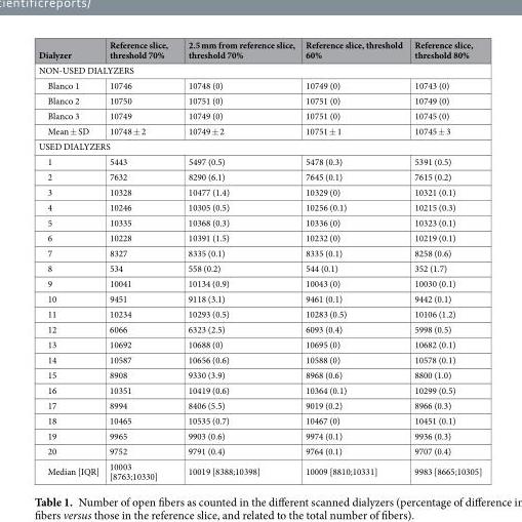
<table><thead><tr><td>Dialyzer</td><td>Reference slice, threshold 70%</td><td>2.5 mm from reference slice, threshold 70%</td><td>Reference slice, threshold 60%</td><td>Reference slice, threshold 80%</td></tr></thead><tbody><tr><td colspan="5">NON-USED DIALYZERS</td></tr><tr><td>Blanco 1</td><td>10746</td><td>10748 (0)</td><td>10749 (0)</td><td>10743 (0)</td></tr><tr><td>Blanco 2</td><td>10750</td><td>10751 (0)</td><td>10751 (0)</td><td>10749 (0)</td></tr><tr><td>Blanco 3</td><td>10749</td><td>10749 (0)</td><td>10751 (0)</td><td>10745 (0)</td></tr><tr><td>Mean ± SD</td><td>10748 ± 2</td><td>10749 ± 2</td><td>10751 ± 1</td><td>10745 ± 3</td></tr><tr><td colspan="5">USED DIALYZERS</td></tr><tr><td>1</td><td>5443</td><td>5497 (0.5)</td><td>5478 (0.3)</td><td>5391 (0.5)</td></tr><tr><td>2</td><td>7632</td><td>8290 (6.1)</td><td>7645 (0.1)</td><td>7615 (0.2)</td></tr><tr><td>3</td><td>10328</td><td>10477 (1.4)</td><td>10329 (0)</td><td>10321 (0.1)</td></tr><tr><td>4</td><td>10246</td><td>10305 (0.5)</td><td>10256 (0.1)</td><td>10215 (0.3)</td></tr><tr><td>5</td><td>10335</td><td>10368 (0.3)</td><td>10336 (0)</td><td>10323 (0.1)</td></tr><tr><td>6</td><td>10228</td><td>10391 (1.5)</td><td>10232 (0)</td><td>10219 (0.1)</td></tr><tr><td>7</td><td>8327</td><td>8335 (0.1)</td><td>8335 (0.1)</td><td>8258 (0.6)</td></tr><tr><td>8</td><td>534</td><td>558 (0.2)</td><td>544 (0.1)</td><td>352 (1.7)</td></tr><tr><td>9</td><td>10041</td><td>10134 (0.9)</td><td>10043 (0)</td><td>10030 (0.1)</td></tr><tr><td>10</td><td>9451</td><td>9118 (3.1)</td><td>9461 (0.1)</td><td>9442 (0.1)</td></tr><tr><td>11</td><td>10234</td><td>10293 (0.5)</td><td>10283 (0.5)</td><td>10106 (1.2)</td></tr><tr><td>12</td><td>6066</td><td>6323 (2.5)</td><td>6093 (0.4)</td><td>5998 (0.5)</td></tr><tr><td>13</td><td>10692</td><td>10688 (0)</td><td>10695 (0)</td><td>10682 (0.1)</td></tr><tr><td>14</td><td>10587</td><td>10656 (0.6)</td><td>10588 (0)</td><td>10578 (0.1)</td></tr><tr><td>15</td><td>8908</td><td>9330 (3.9)</td><td>8968 (0.6)</td><td>8800 (1.0)</td></tr><tr><td>16</td><td>10351</td><td>10419 (0.6)</td><td>10364 (0.1)</td><td>10299 (0.5)</td></tr><tr><td>17</td><td>8994</td><td>8406 (5.5)</td><td>9019 (0.2)</td><td>8966 (0.3)</td></tr><tr><td>18</td><td>10465</td><td>10535 (0.7)</td><td>10467 (0)</td><td>10451 (0.1)</td></tr><tr><td>19</td><td>9965</td><td>9903 (0.6)</td><td>9974 (0.1)</td><td>9936 (0.3)</td></tr><tr><td>20</td><td>9752</td><td>9791 (0.4)</td><td>9764 (0.1)</td><td>9707 (0.4)</td></tr><tr><td>Median [IQR]</td><td>10003 [8763;10330]</td><td>10019 [8388;10398]</td><td>10009 [8810;10331]</td><td>9983 [8665;10305]</td></tr></tbody></table>